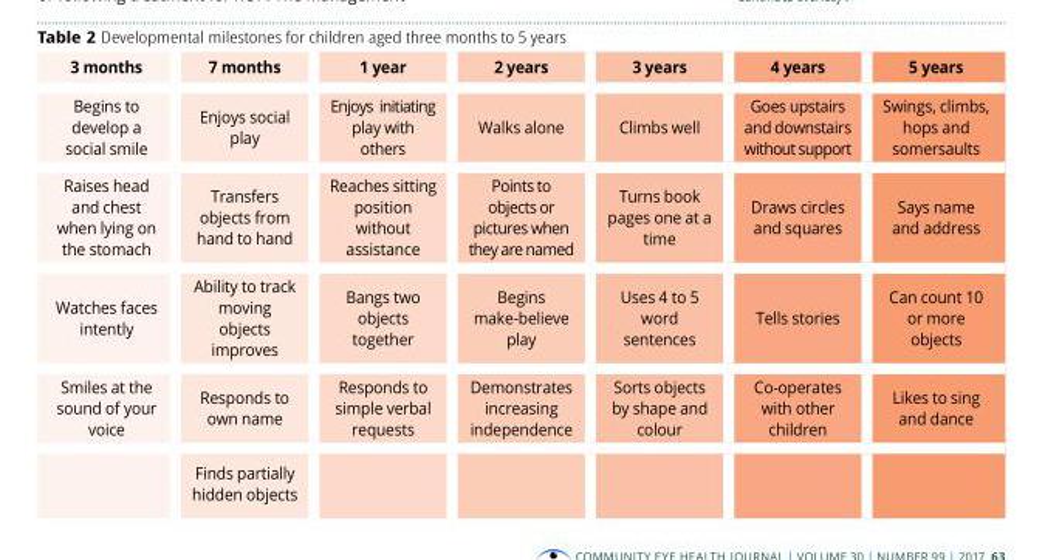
<table><thead><tr><td>3 months</td><td>7 months</td><td>1 year</td><td>2 years</td><td>3 years</td><td>4 years</td><td>5 years</td></tr></thead><tbody><tr><td>Begins to develop a social smile</td><td>Enjoys social play</td><td>Enjoys initiating play with others</td><td>Walks alone</td><td>Climbs well</td><td>Goes upstairs and downstairs without support</td><td>Swings, climbs, hops and somersaults</td></tr><tr><td>Raises head and chest when lying on the stomach</td><td>Transfers objects from hand to hand</td><td>Reaches sitting position without assistance</td><td>Points to objects or pictures when they are named</td><td>Turns book pages one at a time</td><td>Draws circles and squares</td><td>Says name and address</td></tr><tr><td>Watches faces intently</td><td>Ability to track moving objects improves</td><td>Bangs two objects together</td><td>Begins make-believe play</td><td>Uses 4 to 5 word sentences</td><td>Tells stories</td><td>Can count 10 or more objects</td></tr><tr><td rowspan="2">Smiles at the sound of your voice</td><td>Responds to own name</td><td>Responds to simple verbal requests</td><td>Demonstrates increasing independence</td><td>Sorts objects by shape and colour</td><td>Co-operates with other children</td><td>Likes to sing and dance</td></tr><tr><td>Finds partially hidden objects</td><td></td><td></td><td></td><td></td><td></td></tr></tbody></table>